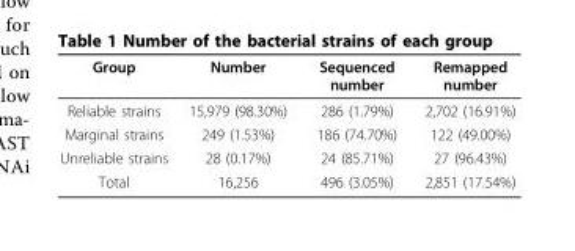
<table><thead><tr><td>Group</td><td>Number</td><td>Sequenced number</td><td>Remapped number</td></tr></thead><tbody><tr><td>Reliable strains</td><td>15,979 (98.30%)</td><td>286 (1.79%)</td><td>2,702 (16.91%)</td></tr><tr><td>Marginal strains</td><td>249 (1.53%)</td><td>186 (74.70%)</td><td>122 (49.00%)</td></tr><tr><td>Unreliable strains</td><td>28 (0.17%)</td><td>24 (85.71%)</td><td>27 (96.43%)</td></tr><tr><td>Total</td><td>16,256</td><td>496 (3.05%)</td><td>2,851 (17.54%)</td></tr></tbody></table>